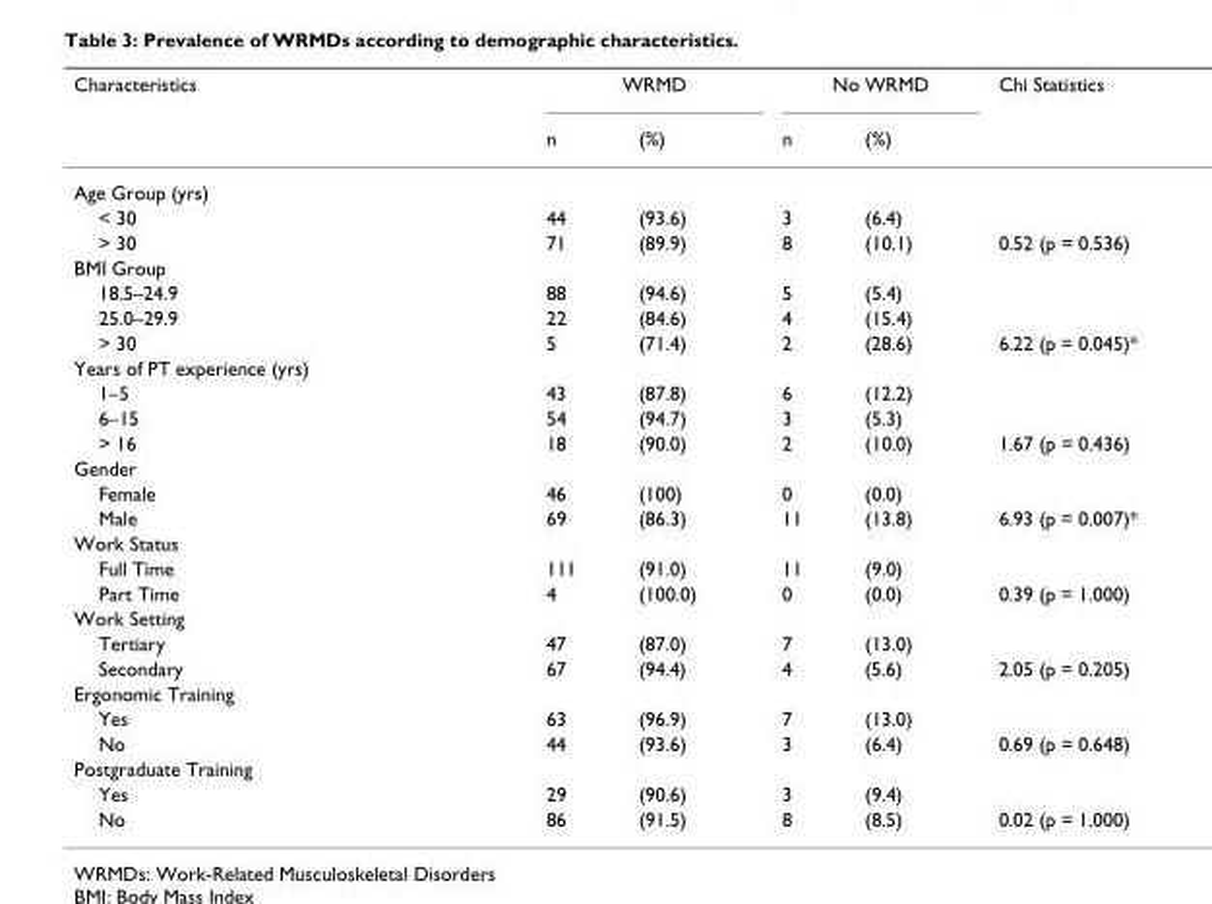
<table><thead><tr><td rowspan="2">Characteristics</td><td colspan="2">WRMD</td><td colspan="2">No WRMD</td><td rowspan="2">Chi Statistics</td></tr><tr><td>n</td><td>(%)</td><td>n</td><td>(%)</td></tr></thead><tbody><tr><td colspan="6">Age Group (yrs)</td></tr><tr><td>&lt; 30</td><td>44</td><td>(93.6)</td><td>3</td><td>(6.4)</td><td></td></tr><tr><td>&gt; 30</td><td>71</td><td>(89.9)</td><td>8</td><td>(10.1)</td><td>0.52 (p = 0.536)</td></tr><tr><td colspan="6">BMI Group</td></tr><tr><td>18.5–24.9</td><td>88</td><td>(94.6)</td><td>5</td><td>(5.4)</td><td></td></tr><tr><td>25.0–29.9</td><td>22</td><td>(84.6)</td><td>4</td><td>(15.4)</td><td></td></tr><tr><td>&gt; 30</td><td>5</td><td>(71.4)</td><td>2</td><td>(28.6)</td><td>6.22 (p = 0.045)*</td></tr><tr><td colspan="6">Years of PT experience (yrs)</td></tr><tr><td>1–5</td><td>43</td><td>(87.8)</td><td>6</td><td>(12.2)</td><td></td></tr><tr><td>6–15</td><td>54</td><td>(94.7)</td><td>3</td><td>(5.3)</td><td></td></tr><tr><td>&gt; 16</td><td>18</td><td>(90.0)</td><td>2</td><td>(10.0)</td><td>1.67 (p = 0.436)</td></tr><tr><td colspan="6">Gender</td></tr><tr><td>Female</td><td>46</td><td>(100)</td><td>0</td><td>(0.0)</td><td></td></tr><tr><td>Male</td><td>69</td><td>(86.3)</td><td>11</td><td>(13.8)</td><td>6.93 (p = 0.007)*</td></tr><tr><td colspan="6">Work Status</td></tr><tr><td>Full Time</td><td>111</td><td>(91.0)</td><td>11</td><td>(9.0)</td><td></td></tr><tr><td>Part Time</td><td>4</td><td>(100.0)</td><td>0</td><td>(0.0)</td><td>0.39 (p = 1.000)</td></tr><tr><td colspan="6">Work Setting</td></tr><tr><td>Tertiary</td><td>47</td><td>(87.0)</td><td>7</td><td>(13.0)</td><td></td></tr><tr><td>Secondary</td><td>67</td><td>(94.4)</td><td>4</td><td>(5.6)</td><td>2.05 (p = 0.205)</td></tr><tr><td colspan="6">Ergonomic Training</td></tr><tr><td>Yes</td><td>63</td><td>(96.9)</td><td>7</td><td>(13.0)</td><td></td></tr><tr><td>No</td><td>44</td><td>(93.6)</td><td>3</td><td>(6.4)</td><td>0.69 (p = 0.648)</td></tr><tr><td colspan="6">Postgraduate Training</td></tr><tr><td>Yes</td><td>29</td><td>(90.6)</td><td>3</td><td>(9.4)</td><td></td></tr><tr><td>No</td><td>86</td><td>(91.5)</td><td>8</td><td>(8.5)</td><td>0.02 (p = 1.000)</td></tr></tbody></table>